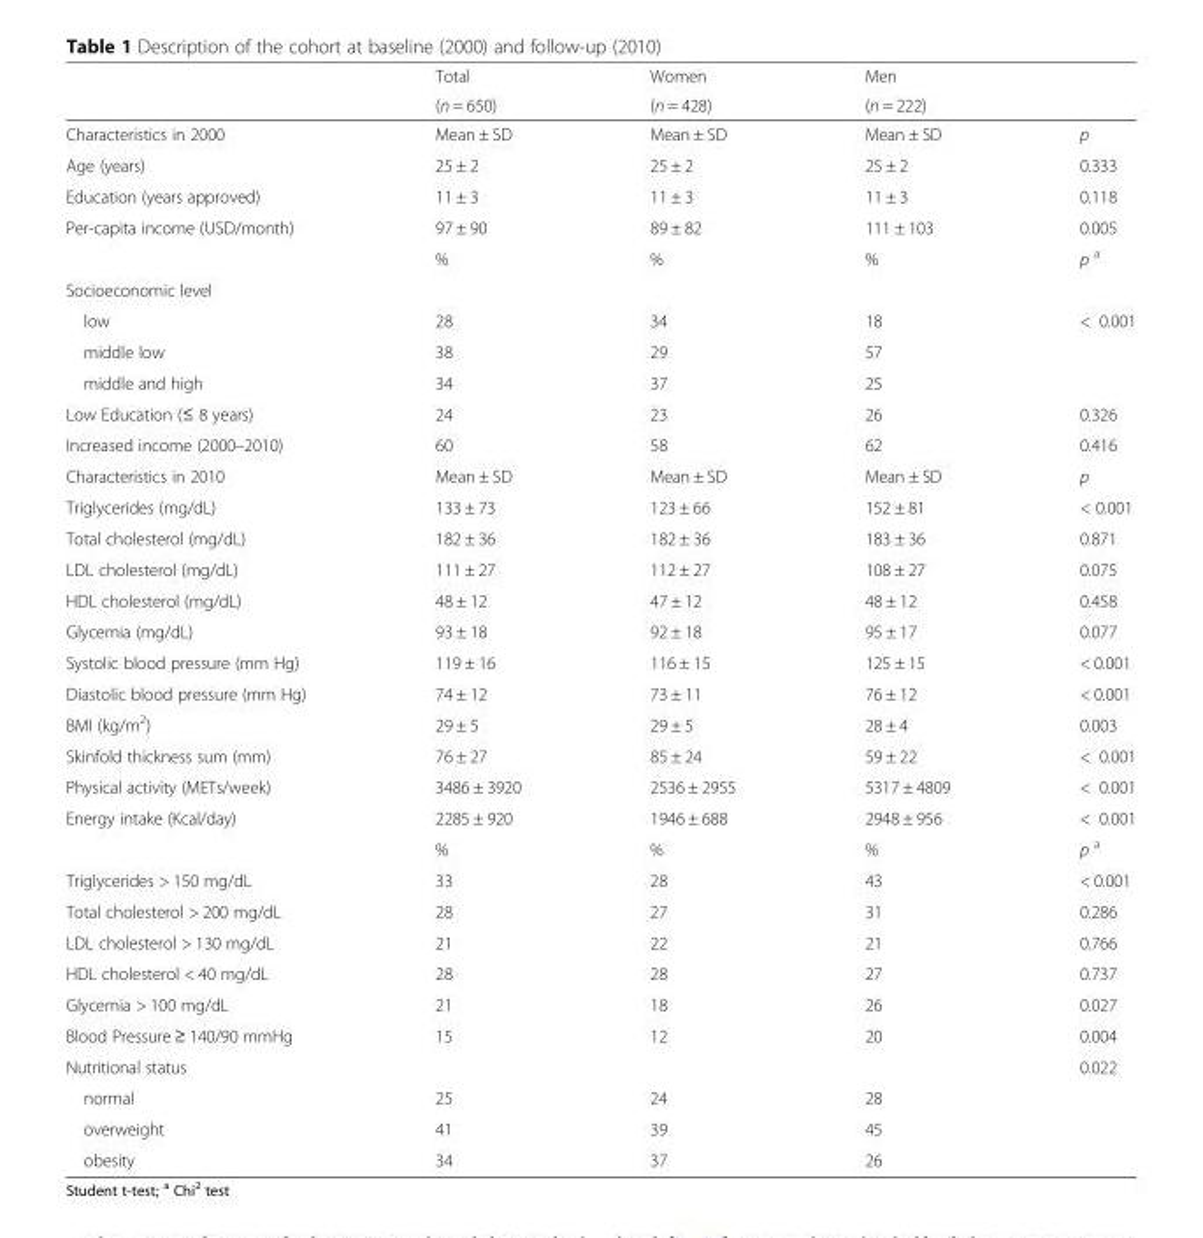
<table><thead><tr><td rowspan="2"></td><td rowspan="2">Total (n = 650)</td><td rowspan="2">Women (n = 428)</td><td rowspan="2">Men (n = 222)</td><td rowspan="2"></td></tr><tr></tr></thead><tbody><tr><td>Characteristics in 2000</td><td>Mean ± SD</td><td>Mean ± SD</td><td>Mean ± SD</td><td>p</td></tr><tr><td>Age (years)</td><td>25 ± 2</td><td>25 ± 2</td><td>25 ± 2</td><td>0.333</td></tr><tr><td>Education (years approved)</td><td>11 ± 3</td><td>11 ± 3</td><td>11 ± 3</td><td>0.118</td></tr><tr><td rowspan="2">Per-capita income (USD/month)</td><td>97 ± 90</td><td>89 ± 82</td><td>111 ± 103</td><td>0.005</td></tr><tr><td>%</td><td>%</td><td>%</td><td>p <sup>a</sup></td></tr><tr><td colspan="5">Socioeconomic level</td></tr><tr><td>low</td><td>28</td><td>34</td><td>18</td><td rowspan="3">&lt; 0.001</td></tr><tr><td>middle low</td><td>38</td><td>29</td><td>57</td></tr><tr><td>middle and high</td><td>34</td><td>37</td><td>25</td></tr><tr><td>Low Education (≤ 8 years)</td><td>24</td><td>23</td><td>26</td><td>0.326</td></tr><tr><td>Increased income (2000–2010)</td><td>60</td><td>58</td><td>62</td><td>0.416</td></tr><tr><td>Characteristics in 2010</td><td>Mean ± SD</td><td>Mean ± SD</td><td>Mean ± SD</td><td>p</td></tr><tr><td>Triglycerides (mg/dL)</td><td>133 ± 73</td><td>123 ± 66</td><td>152 ± 81</td><td>&lt; 0.001</td></tr><tr><td>Total cholesterol (mg/dL)</td><td>182 ± 36</td><td>182 ± 36</td><td>183 ± 36</td><td>0.871</td></tr><tr><td>LDL cholesterol (mg/dL)</td><td>111 ± 27</td><td>112 ± 27</td><td>108 ± 27</td><td>0.075</td></tr><tr><td>HDL cholesterol (mg/dL)</td><td>48 ± 12</td><td>47 ± 12</td><td>48 ± 12</td><td>0.458</td></tr><tr><td>Glycemia (mg/dL)</td><td>93 ± 18</td><td>92 ± 18</td><td>95 ± 17</td><td>0.077</td></tr><tr><td>Systolic blood pressure (mm Hg)</td><td>119 ± 16</td><td>116 ± 15</td><td>125 ± 15</td><td>&lt; 0.001</td></tr><tr><td>Diastolic blood pressure (mm Hg)</td><td>74 ± 12</td><td>73 ± 11</td><td>76 ± 12</td><td>&lt; 0.001</td></tr><tr><td>BMI (kg/m<sup>2</sup>)</td><td>29 ± 5</td><td>29 ± 5</td><td>28 ± 4</td><td>0.003</td></tr><tr><td>Skinfold thickness sum (mm)</td><td>76 ± 27</td><td>85 ± 24</td><td>59 ± 22</td><td>&lt; 0.001</td></tr><tr><td>Physical activity (METs/week)</td><td>3486 ± 3920</td><td>2536 ± 2955</td><td>5317 ± 4809</td><td>&lt; 0.001</td></tr><tr><td rowspan="2">Energy intake (Kcal/day)</td><td>2285 ± 920</td><td>1946 ± 688</td><td>2948 ± 956</td><td>&lt; 0.001</td></tr><tr><td>%</td><td>%</td><td>%</td><td>p <sup>a</sup></td></tr><tr><td>Triglycerides &gt; 150 mg/dL</td><td>33</td><td>28</td><td>43</td><td>&lt; 0.001</td></tr><tr><td>Total cholesterol &gt; 200 mg/dL</td><td>28</td><td>27</td><td>31</td><td>0.286</td></tr><tr><td>LDL cholesterol &gt; 130 mg/dL</td><td>21</td><td>22</td><td>21</td><td>0.766</td></tr><tr><td>HDL cholesterol &lt; 40 mg/dL</td><td>28</td><td>28</td><td>27</td><td>0.737</td></tr><tr><td>Glycemia &gt; 100 mg/dL</td><td>21</td><td>18</td><td>26</td><td>0.027</td></tr><tr><td>Blood Pressure ≥ 140/90 mmHg</td><td>15</td><td>12</td><td>20</td><td>0.004</td></tr><tr><td colspan="4">Nutritional status</td><td rowspan="4">0.022</td></tr><tr><td>normal</td><td>25</td><td>24</td><td>28</td></tr><tr><td>overweight</td><td>41</td><td>39</td><td>45</td></tr><tr><td>obesity</td><td>34</td><td>37</td><td>26</td></tr></tbody></table>